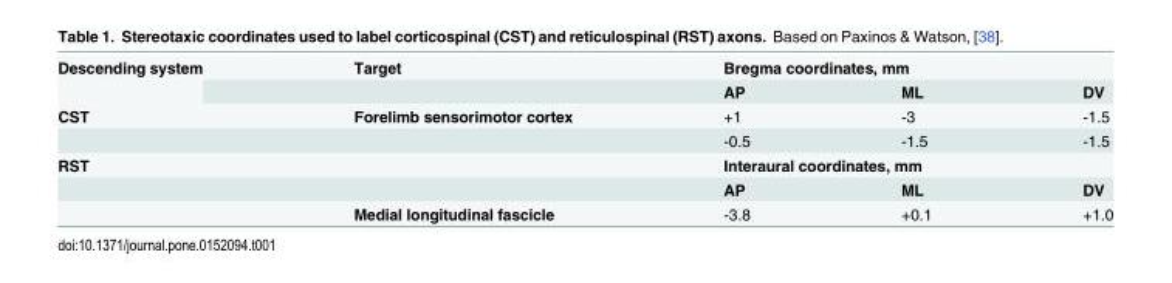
<table><tbody><tr><td rowspan="2">Descending system</td><td>Target</td><td colspan="3">Bregma coordinates, mm</td></tr><tr><td></td><td>AP</td><td>ML</td><td>DV</td></tr><tr><td rowspan="2">CST</td><td>Forelimb sensorimotor cortex</td><td>+1</td><td>-3</td><td>-1.5</td></tr><tr><td></td><td>-0.5</td><td>-1.5</td><td>-1.5</td></tr><tr><td rowspan="3">RST</td><td></td><td colspan="3">Interaural coordinates, mm</td></tr><tr><td></td><td>AP</td><td>ML</td><td>DV</td></tr><tr><td>Medial longitudinal fascicle</td><td>-3.8</td><td>+0.1</td><td>+1.0</td></tr></tbody></table>